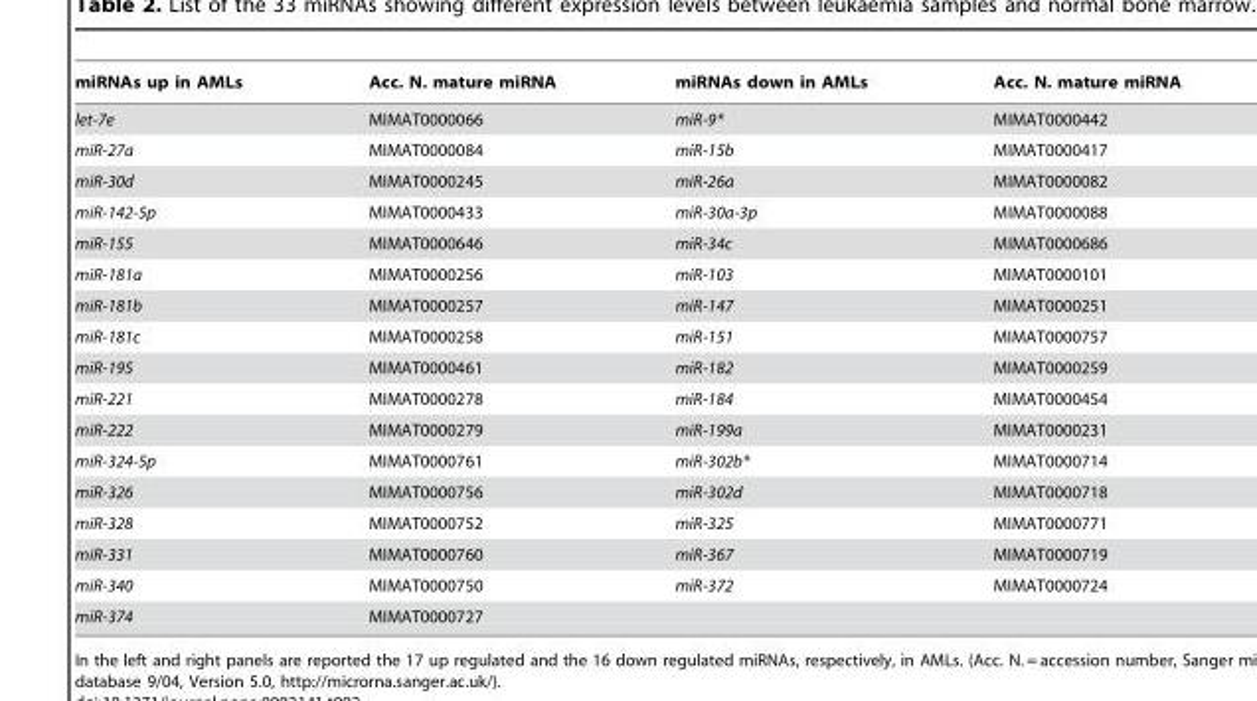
<table><thead><tr><td>miRNAs up in AMLs</td><td>Acc. N. mature miRNA</td><td>miRNAs down in AMLs</td><td>Acc. N. mature miRNA</td></tr></thead><tbody><tr><td>let-7e</td><td>MIMAT0000066</td><td>miR-9*</td><td>MIMAT0000442</td></tr><tr><td>miR-27a</td><td>MIMAT0000084</td><td>miR-15b</td><td>MIMAT0000417</td></tr><tr><td>miR-30d</td><td>MIMAT0000245</td><td>miR-26a</td><td>MIMAT0000082</td></tr><tr><td>miR-142-5p</td><td>MIMAT0000433</td><td>miR-30a-3p</td><td>MIMAT0000088</td></tr><tr><td>miR-155</td><td>MIMAT0000646</td><td>miR-34c</td><td>MIMAT0000686</td></tr><tr><td>miR-181a</td><td>MIMAT0000256</td><td>miR-103</td><td>MIMAT0000101</td></tr><tr><td>miR-181b</td><td>MIMAT0000257</td><td>miR-147</td><td>MIMAT0000251</td></tr><tr><td>miR-181c</td><td>MIMAT0000258</td><td>miR-151</td><td>MIMAT0000757</td></tr><tr><td>miR-195</td><td>MIMAT0000461</td><td>miR-182</td><td>MIMAT0000259</td></tr><tr><td>miR-221</td><td>MIMAT0000278</td><td>miR-184</td><td>MIMAT0000454</td></tr><tr><td>miR-222</td><td>MIMAT0000279</td><td>miR-199a</td><td>MIMAT0000231</td></tr><tr><td>miR-324-5p</td><td>MIMAT0000761</td><td>miR-302b*</td><td>MIMAT0000714</td></tr><tr><td>miR-326</td><td>MIMAT0000756</td><td>miR-302d</td><td>MIMAT0000718</td></tr><tr><td>miR-328</td><td>MIMAT0000752</td><td>miR-325</td><td>MIMAT0000771</td></tr><tr><td>miR-331</td><td>MIMAT0000760</td><td>miR-367</td><td>MIMAT0000719</td></tr><tr><td>miR-340</td><td>MIMAT0000750</td><td>miR-372</td><td>MIMAT0000724</td></tr><tr><td>miR-374</td><td>MIMAT0000727</td><td></td><td></td></tr></tbody></table>